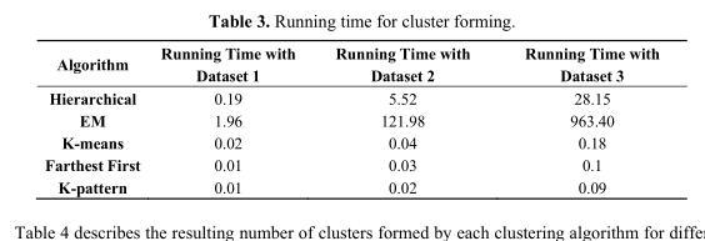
<table><thead><tr><td>Algorithm</td><td>Running Time with Dataset 1</td><td>Running Time with Dataset 2</td><td>Running Time with Dataset 3</td></tr></thead><tbody><tr><td>Hierarchical</td><td>0.19</td><td>5.52</td><td>28.15</td></tr><tr><td>EM</td><td>1.96</td><td>121.98</td><td>963.40</td></tr><tr><td>K-means</td><td>0.02</td><td>0.04</td><td>0.18</td></tr><tr><td>Farthest First</td><td>0.01</td><td>0.03</td><td>0.1</td></tr><tr><td>K-pattern</td><td>0.01</td><td>0.02</td><td>0.09</td></tr></tbody></table>